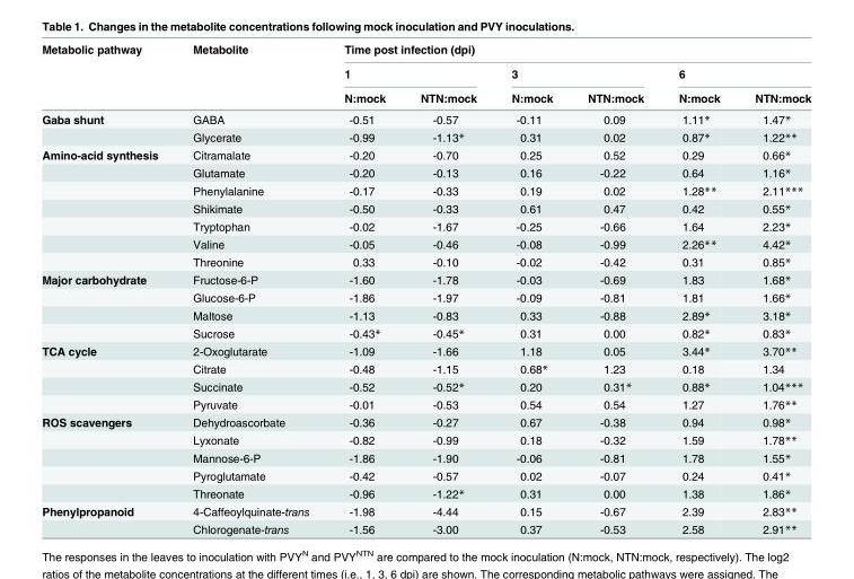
<table><thead><tr><td rowspan="3">Metabolic pathway</td><td rowspan="3">Metabolite</td><td colspan="6">Time post infection (dpi)</td></tr><tr><td colspan="2">1</td><td colspan="2">3</td><td colspan="2">6</td></tr><tr><td>N:mock</td><td>NTN:mock</td><td>N:mock</td><td>NTN:mock</td><td>N:mock</td><td>NTN:mock</td></tr></thead><tbody><tr><td rowspan="2">Gaba shunt</td><td>GABA</td><td>-0.51</td><td>-0.57</td><td>-0.11</td><td>0.09</td><td>1.11*</td><td>1.47*</td></tr><tr><td>Glycerate</td><td>-0.99</td><td>-1.13*</td><td>0.31</td><td>0.02</td><td>0.87*</td><td>1.22**</td></tr><tr><td rowspan="7">Amino-acid synthesis</td><td>Citramalate</td><td>-0.20</td><td>-0.70</td><td>0.25</td><td>0.52</td><td>0.29</td><td>0.66*</td></tr><tr><td>Glutamate</td><td>-0.20</td><td>-0.13</td><td>0.16</td><td>-0.22</td><td>0.64</td><td>1.16*</td></tr><tr><td>Phenylalanine</td><td>-0.17</td><td>-0.33</td><td>0.19</td><td>0.02</td><td>1.28**</td><td>2.11***</td></tr><tr><td>Shikimate</td><td>-0.50</td><td>-0.33</td><td>0.61</td><td>0.47</td><td>0.42</td><td>0.55*</td></tr><tr><td>Tryptophan</td><td>-0.02</td><td>-1.67</td><td>-0.25</td><td>-0.66</td><td>1.64</td><td>2.23*</td></tr><tr><td>Valine</td><td>-0.05</td><td>-0.46</td><td>-0.08</td><td>-0.99</td><td>2.26**</td><td>4.42*</td></tr><tr><td>Threonine</td><td>0.33</td><td>-0.10</td><td>-0.02</td><td>-0.42</td><td>0.31</td><td>0.85*</td></tr><tr><td rowspan="4">Major carbohydrate</td><td>Fructose-6-P</td><td>-1.60</td><td>-1.78</td><td>-0.03</td><td>-0.69</td><td>1.83</td><td>1.68*</td></tr><tr><td>Glucose-6-P</td><td>-1.86</td><td>-1.97</td><td>-0.09</td><td>-0.81</td><td>1.81</td><td>1.66*</td></tr><tr><td>Maltose</td><td>-1.13</td><td>-0.83</td><td>0.33</td><td>-0.88</td><td>2.89*</td><td>3.18*</td></tr><tr><td>Sucrose</td><td>-0.43*</td><td>-0.45*</td><td>0.31</td><td>0.00</td><td>0.82*</td><td>0.83*</td></tr><tr><td rowspan="4">TCA cycle</td><td>2-Oxoglutarate</td><td>-1.09</td><td>-1.66</td><td>1.18</td><td>0.05</td><td>3.44*</td><td>3.70**</td></tr><tr><td>Citrate</td><td>-0.48</td><td>-1.15</td><td>0.68*</td><td>1.23</td><td>0.18</td><td>1.34</td></tr><tr><td>Succinate</td><td>-0.52</td><td>-0.52*</td><td>0.20</td><td>0.31*</td><td>0.88*</td><td>1.04***</td></tr><tr><td>Pyruvate</td><td>-0.01</td><td>-0.53</td><td>0.54</td><td>0.54</td><td>1.27</td><td>1.76**</td></tr><tr><td rowspan="5">ROS scavengers</td><td>Dehydroascorbate</td><td>-0.36</td><td>-0.27</td><td>0.67</td><td>-0.38</td><td>0.94</td><td>0.98*</td></tr><tr><td>Lyxonate</td><td>-0.82</td><td>-0.99</td><td>0.18</td><td>-0.32</td><td>1.59</td><td>1.78**</td></tr><tr><td>Mannose-6-P</td><td>-1.86</td><td>-1.90</td><td>-0.06</td><td>-0.81</td><td>1.78</td><td>1.55*</td></tr><tr><td>Pyroglutamate</td><td>-0.42</td><td>-0.57</td><td>0.02</td><td>-0.07</td><td>0.24</td><td>0.41*</td></tr><tr><td>Threonate</td><td>-0.96</td><td>-1.22*</td><td>0.31</td><td>0.00</td><td>1.38</td><td>1.86*</td></tr><tr><td rowspan="2">Phenylpropanoid</td><td>4-Caffeoylquinate-trans</td><td>-1.98</td><td>-4.44</td><td>0.15</td><td>-0.67</td><td>2.39</td><td>2.83**</td></tr><tr><td>Chlorogenate-trans</td><td>-1.56</td><td>-3.00</td><td>0.37</td><td>-0.53</td><td>2.58</td><td>2.91**</td></tr></tbody></table>